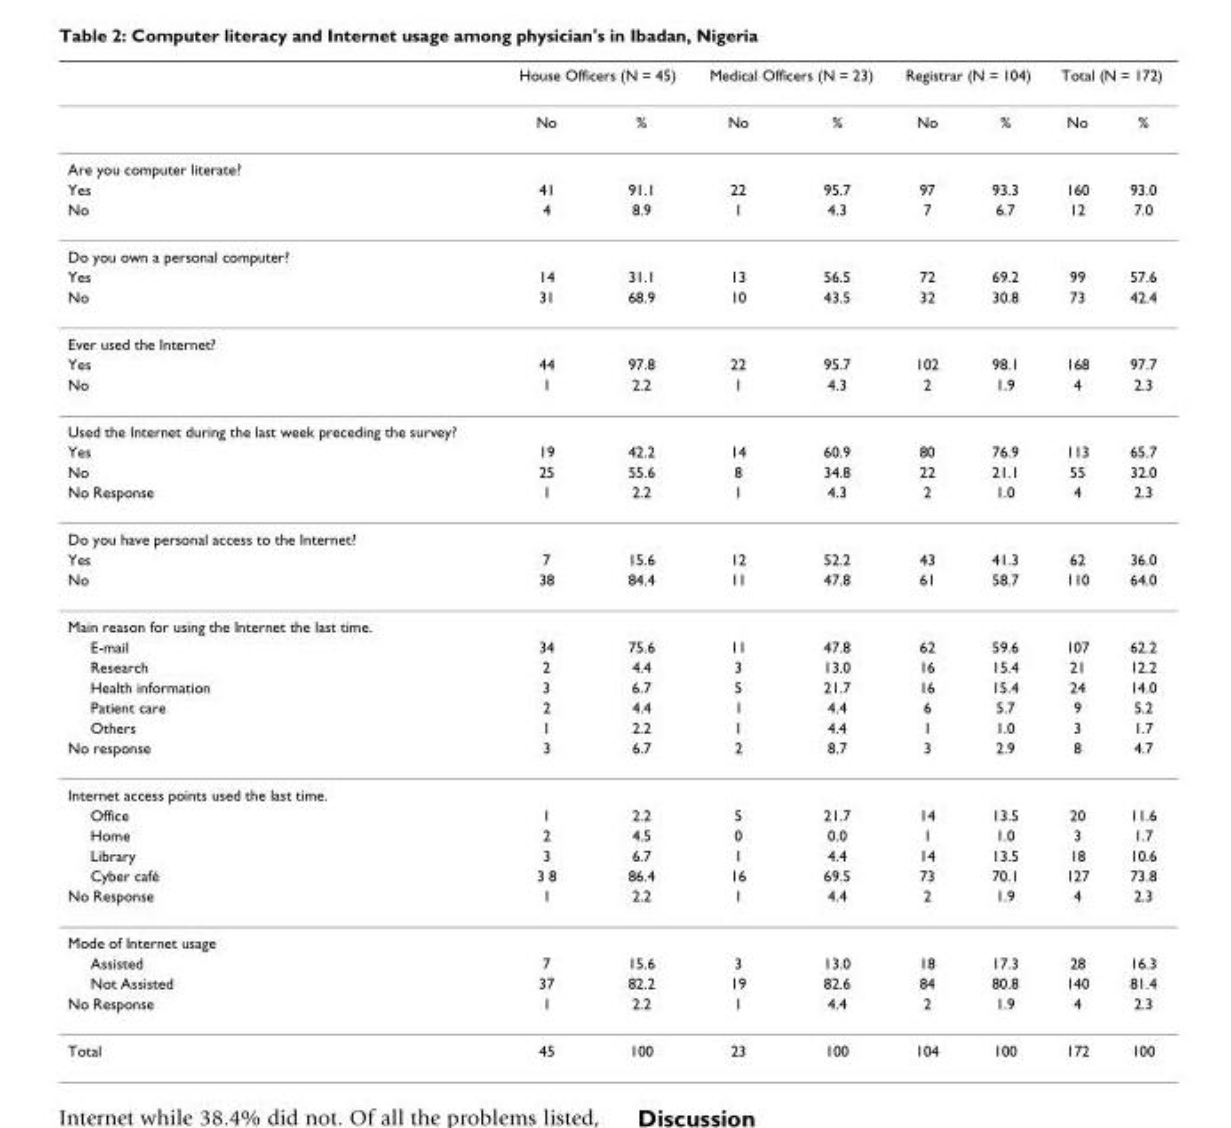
<table><thead><tr><td rowspan="2"></td><td colspan="2">House Officers (N = 45)</td><td colspan="2">Medical Officers (N = 23)</td><td colspan="2">Registrar (N = 104)</td><td colspan="2">Total (N = 172)</td></tr><tr><td>No</td><td>%</td><td>No</td><td>%</td><td>No</td><td>%</td><td>No</td><td>%</td></tr></thead><tbody><tr><td colspan="9">Are you computer literate?</td></tr><tr><td>Yes</td><td>41</td><td>91.1</td><td>22</td><td>95.7</td><td>97</td><td>93.3</td><td>160</td><td>93.0</td></tr><tr><td>No</td><td>4</td><td>8.9</td><td>1</td><td>4.3</td><td>7</td><td>6.7</td><td>12</td><td>7.0</td></tr><tr><td colspan="9">Do you own a personal computer?</td></tr><tr><td>Yes</td><td>14</td><td>31.1</td><td>13</td><td>56.5</td><td>72</td><td>69.2</td><td>99</td><td>57.6</td></tr><tr><td>No</td><td>31</td><td>68.9</td><td>10</td><td>43.5</td><td>32</td><td>30.8</td><td>73</td><td>42.4</td></tr><tr><td colspan="9">Ever used the Internet?</td></tr><tr><td>Yes</td><td>44</td><td>97.8</td><td>22</td><td>95.7</td><td>102</td><td>98.1</td><td>168</td><td>97.7</td></tr><tr><td>No</td><td>1</td><td>2.2</td><td>1</td><td>4.3</td><td>2</td><td>1.9</td><td>4</td><td>2.3</td></tr><tr><td colspan="9">Used the Internet during the last week preceding the survey?</td></tr><tr><td>Yes</td><td>19</td><td>42.2</td><td>14</td><td>60.9</td><td>80</td><td>76.9</td><td>113</td><td>65.7</td></tr><tr><td>No</td><td>25</td><td>55.6</td><td>8</td><td>34.8</td><td>22</td><td>21.1</td><td>55</td><td>32.0</td></tr><tr><td>No Response</td><td>1</td><td>2.2</td><td>1</td><td>4.3</td><td>2</td><td>1.0</td><td>4</td><td>2.3</td></tr><tr><td colspan="9">Do you have personal access to the Internet?</td></tr><tr><td>Yes</td><td>7</td><td>15.6</td><td>12</td><td>52.2</td><td>43</td><td>41.3</td><td>62</td><td>36.0</td></tr><tr><td>No</td><td>38</td><td>84.4</td><td>11</td><td>47.8</td><td>61</td><td>58.7</td><td>110</td><td>64.0</td></tr><tr><td colspan="9">Main reason for using the Internet the last time.</td></tr><tr><td>E-mail</td><td>34</td><td>75.6</td><td>11</td><td>47.8</td><td>62</td><td>59.6</td><td>107</td><td>62.2</td></tr><tr><td>Research</td><td>2</td><td>4.4</td><td>3</td><td>13.0</td><td>16</td><td>15.4</td><td>21</td><td>12.2</td></tr><tr><td>Health information</td><td>3</td><td>6.7</td><td>5</td><td>21.7</td><td>16</td><td>15.4</td><td>24</td><td>14.0</td></tr><tr><td>Patient care</td><td>2</td><td>4.4</td><td>1</td><td>4.4</td><td>6</td><td>5.7</td><td>9</td><td>5.2</td></tr><tr><td>Others</td><td>1</td><td>2.2</td><td>1</td><td>4.4</td><td>1</td><td>1.0</td><td>3</td><td>1.7</td></tr><tr><td>No response</td><td>3</td><td>6.7</td><td>2</td><td>8.7</td><td>3</td><td>2.9</td><td>8</td><td>4.7</td></tr><tr><td colspan="9">Internet access points used the last time.</td></tr><tr><td>Office</td><td>1</td><td>2.2</td><td>5</td><td>21.7</td><td>14</td><td>13.5</td><td>20</td><td>11.6</td></tr><tr><td>Home</td><td>2</td><td>4.5</td><td>0</td><td>0.0</td><td>1</td><td>1.0</td><td>3</td><td>1.7</td></tr><tr><td>Library</td><td>3</td><td>6.7</td><td>1</td><td>4.4</td><td>14</td><td>13.5</td><td>18</td><td>10.6</td></tr><tr><td>Cyber café</td><td>3 8</td><td>86.4</td><td>16</td><td>69.5</td><td>73</td><td>70.1</td><td>127</td><td>73.8</td></tr><tr><td>No Response</td><td>1</td><td>2.2</td><td>1</td><td>4.4</td><td>2</td><td>1.9</td><td>4</td><td>2.3</td></tr><tr><td colspan="9">Mode of Internet usage</td></tr><tr><td>Assisted</td><td>7</td><td>15.6</td><td>3</td><td>13.0</td><td>18</td><td>17.3</td><td>28</td><td>16.3</td></tr><tr><td>Not Assisted</td><td>37</td><td>82.2</td><td>19</td><td>82.6</td><td>84</td><td>80.8</td><td>140</td><td>81.4</td></tr><tr><td>No Response</td><td>1</td><td>2.2</td><td>1</td><td>4.4</td><td>2</td><td>1.9</td><td>4</td><td>2.3</td></tr><tr><td>Total</td><td>45</td><td>100</td><td>23</td><td>100</td><td>104</td><td>100</td><td>172</td><td>100</td></tr></tbody></table>